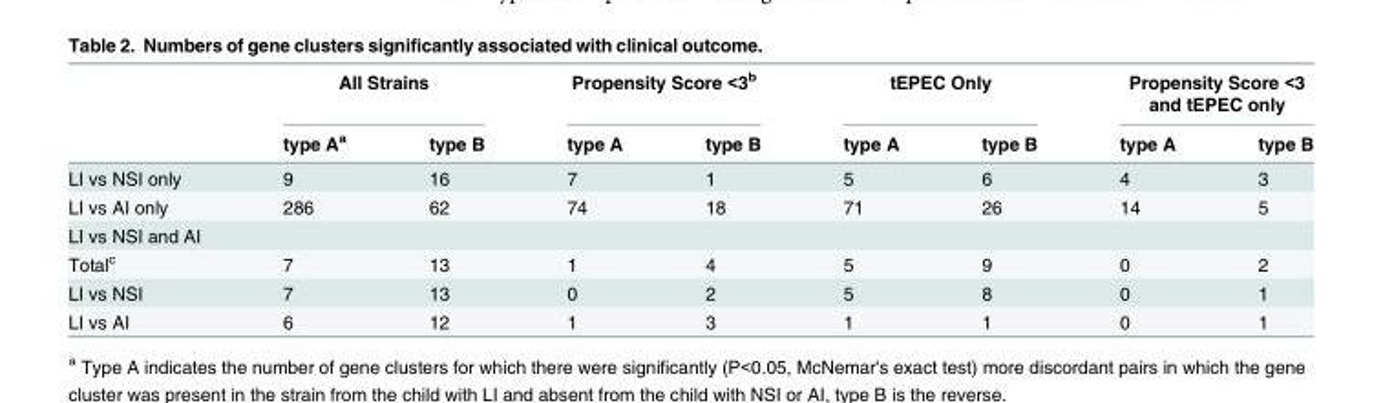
<table><thead><tr><td rowspan="2"></td><td colspan="2">All Strains</td><td colspan="2">Propensity Score &lt;3<sup>b</sup></td><td colspan="2">tEPEC Only</td><td colspan="2">Propensity Score &lt;3 and tEPEC only</td></tr><tr><td>type A<sup>a</sup></td><td>type B</td><td>type A</td><td>type B</td><td>type A</td><td>type B</td><td>type A</td><td>type B</td></tr></thead><tbody><tr><td>LI vs NSI only</td><td>9</td><td>16</td><td>7</td><td>1</td><td>5</td><td>6</td><td>4</td><td>3</td></tr><tr><td>LI vs AI only</td><td>286</td><td>62</td><td>74</td><td>18</td><td>71</td><td>26</td><td>14</td><td>5</td></tr><tr><td colspan="9">LI vs NSI and AI</td></tr><tr><td>Total<sup>c</sup></td><td>7</td><td>13</td><td>1</td><td>4</td><td>5</td><td>9</td><td>0</td><td>2</td></tr><tr><td>LI vs NSI</td><td>7</td><td>13</td><td>0</td><td>2</td><td>5</td><td>8</td><td>0</td><td>1</td></tr><tr><td>LI vs AI</td><td>6</td><td>12</td><td>1</td><td>3</td><td>1</td><td>1</td><td>0</td><td>1</td></tr></tbody></table>